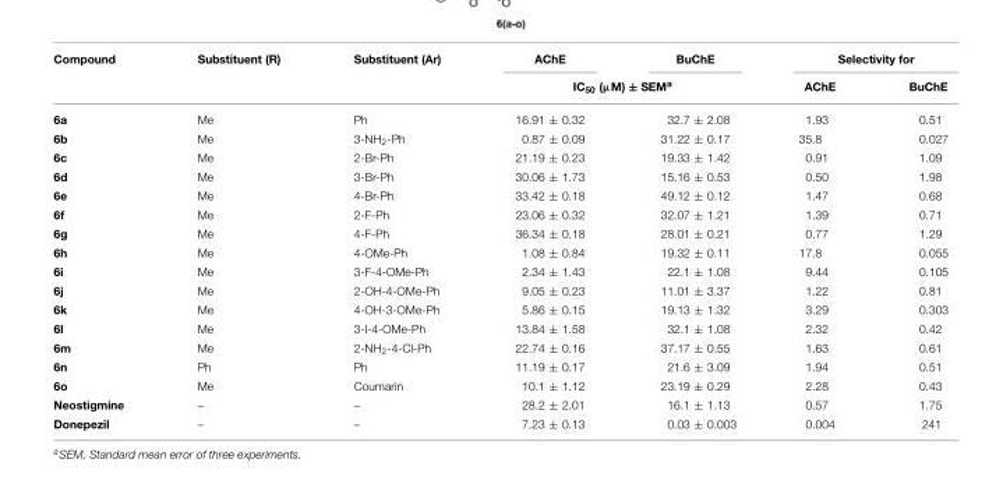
<table><thead><tr><td rowspan="2">Compound</td><td rowspan="2">Substituent (R)</td><td rowspan="2">Substituent (Ar)</td><td>AChE</td><td>BuChE</td><td colspan="2">Selectivity for</td></tr><tr><td colspan="2">IC<sub>50</sub> (µM) ± SEM<sup>a</sup></td><td>AChE</td><td>BuChE</td></tr></thead><tbody><tr><td>6a</td><td>Me</td><td>Ph</td><td>16.91 ± 0.32</td><td>32.7 ± 2.08</td><td>1.93</td><td>0.51</td></tr><tr><td>6b</td><td>Me</td><td>3-NH<sub>2</sub>-Ph</td><td>0.87 ± 0.09</td><td>31.22 ± 0.17</td><td>35.8</td><td>0.027</td></tr><tr><td>6c</td><td>Me</td><td>2-Br-Ph</td><td>21.19 ± 0.23</td><td>19.33 ± 1.42</td><td>0.91</td><td>1.09</td></tr><tr><td>6d</td><td>Me</td><td>3-Br-Ph</td><td>30.06 ± 1.73</td><td>15.16 ± 0.53</td><td>0.50</td><td>1.98</td></tr><tr><td>6e</td><td>Me</td><td>4-Br-Ph</td><td>33.42 ± 0.18</td><td>49.12 ± 0.12</td><td>1.47</td><td>0.68</td></tr><tr><td>6f</td><td>Me</td><td>2-F-Ph</td><td>23.06 ± 0.32</td><td>32.07 ± 1.21</td><td>1.39</td><td>0.71</td></tr><tr><td>6g</td><td>Me</td><td>4-F-Ph</td><td>36.34 ± 0.18</td><td>28.01 ± 0.21</td><td>0.77</td><td>1.29</td></tr><tr><td>6h</td><td>Me</td><td>4-OMe-Ph</td><td>1.08 ± 0.84</td><td>19.32 ± 0.11</td><td>17.8</td><td>0.055</td></tr><tr><td>6i</td><td>Me</td><td>3-F-4-OMe-Ph</td><td>2.34 ± 1.43</td><td>22.1 ± 1.08</td><td>9.44</td><td>0.105</td></tr><tr><td>6j</td><td>Me</td><td>2-OH-4-OMe-Ph</td><td>9.05 ± 0.23</td><td>11.01 ± 3.37</td><td>1.22</td><td>0.81</td></tr><tr><td>6k</td><td>Me</td><td>4-OH-3-OMe-Ph</td><td>5.86 ± 0.15</td><td>19.13 ± 1.32</td><td>3.29</td><td>0.303</td></tr><tr><td>6l</td><td>Me</td><td>3-I-4-OMe-Ph</td><td>13.84 ± 1.58</td><td>32.1 ± 1.08</td><td>2.32</td><td>0.42</td></tr><tr><td>6m</td><td>Me</td><td>2-NH<sub>2</sub>-4-Cl-Ph</td><td>22.74 ± 0.16</td><td>37.17 ± 0.55</td><td>1.63</td><td>0.61</td></tr><tr><td>6n</td><td>Ph</td><td>Ph</td><td>11.19 ± 0.17</td><td>21.6 ± 3.09</td><td>1.94</td><td>0.51</td></tr><tr><td>6o</td><td>Me</td><td>Coumarin</td><td>10.1 ± 1.12</td><td>23.19 ± 0.29</td><td>2.28</td><td>0.43</td></tr><tr><td>Neostigmine</td><td>–</td><td>–</td><td>28.2 ± 2.01</td><td>16.1 ± 1.13</td><td>0.57</td><td>1.75</td></tr><tr><td>Donepezil</td><td>–</td><td>–</td><td>7.23 ± 0.13</td><td>0.03 ± 0.003</td><td>0.004</td><td>241</td></tr></tbody></table>